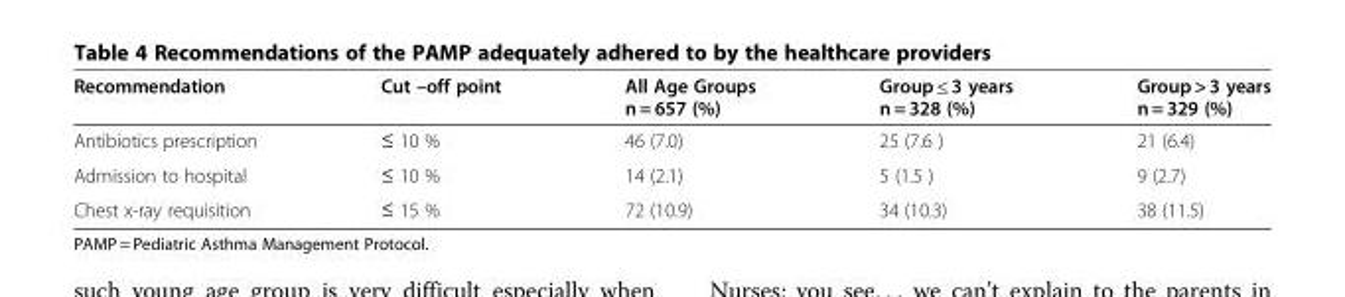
<table><thead><tr><td>Recommendation</td><td>Cut –off point</td><td>All Age Groups n = 657 (%)</td><td>Group ≤ 3 years n = 328 (%)</td><td>Group &gt; 3 years n = 329 (%)</td></tr></thead><tbody><tr><td>Antibiotics prescription</td><td>≤ 10 %</td><td>46 (7.0)</td><td>25 (7.6 )</td><td>21 (6.4)</td></tr><tr><td>Admission to hospital</td><td>≤ 10 %</td><td>14 (2.1)</td><td>5 (1.5 )</td><td>9 (2.7)</td></tr><tr><td>Chest x-ray requisition</td><td>≤ 15 %</td><td>72 (10.9)</td><td>34 (10.3)</td><td>38 (11.5)</td></tr></tbody></table>